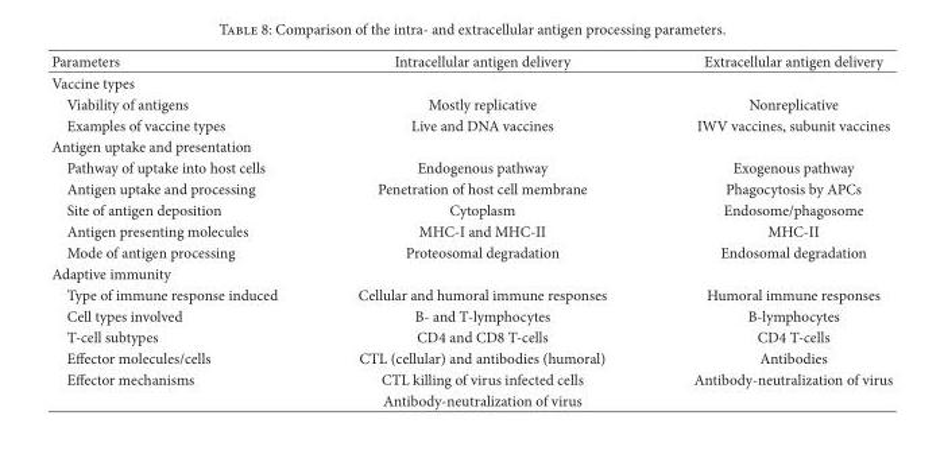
<table><thead><tr><td>Parameters</td><td>Intracellular antigen delivery</td><td>Extracellular antigen delivery</td></tr></thead><tbody><tr><td colspan="3">Vaccine types</td></tr><tr><td>Viability of antigens</td><td>Mostly replicative</td><td>Nonreplicative</td></tr><tr><td>Examples of vaccine types</td><td>Live and DNA vaccines</td><td>IWV vaccines, subunit vaccines</td></tr><tr><td colspan="3">Antigen uptake and presentation</td></tr><tr><td>Pathway of uptake into host cells</td><td>Endogenous pathway</td><td>Exogenous pathway</td></tr><tr><td>Antigen uptake and processing</td><td>Penetration of host cell membrane</td><td>Phagocytosis by APCs</td></tr><tr><td>Site of antigen deposition</td><td>Cytoplasm</td><td>Endosome/phagosome</td></tr><tr><td>Antigen presenting molecules</td><td>MHC-I and MHC-II</td><td>MHC-II</td></tr><tr><td>Mode of antigen processing</td><td>Proteosomal degradation</td><td>Endosomal degradation</td></tr><tr><td colspan="3">Adaptive immunity</td></tr><tr><td>Type of immune response induced</td><td>Cellular and humoral immune responses</td><td>Humoral immune responses</td></tr><tr><td>Cell types involved</td><td>B- and T-lymphocytes</td><td>B-lymphocytes</td></tr><tr><td>T-cell subtypes</td><td>CD4 and CD8 T-cells</td><td>CD4 T-cells</td></tr><tr><td>Effector molecules/cells</td><td>CTL (cellular) and antibodies (humoral)</td><td>Antibodies</td></tr><tr><td rowspan="2">Effector mechanisms</td><td>CTL killing of virus infected cells</td><td>Antibody-neutralization of virus</td></tr><tr><td>Antibody-neutralization of virus</td><td></td></tr></tbody></table>